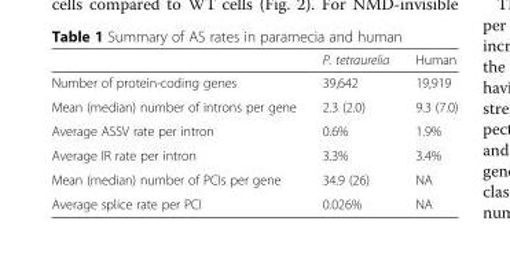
<table><thead><tr><td></td><td>P. tetraurelia</td><td>Human</td></tr></thead><tbody><tr><td>Number of protein-coding genes</td><td>39,642</td><td>19,919</td></tr><tr><td>Mean (median) number of introns per gene</td><td>2.3 (2.0)</td><td>9.3 (7.0)</td></tr><tr><td>Average ASSV rate per intron</td><td>0.6%</td><td>1.9%</td></tr><tr><td>Average IR rate per intron</td><td>3.3%</td><td>3.4%</td></tr><tr><td>Mean (median) number of PCIs per gene</td><td>34.9 (26)</td><td>NA</td></tr><tr><td>Average splice rate per PCI</td><td>0.026%</td><td>NA</td></tr></tbody></table>